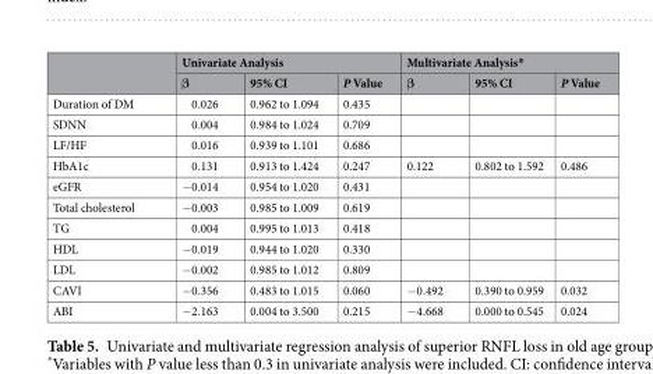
<table><thead><tr><td rowspan="2"></td><td colspan="3">Univariate Analysis</td><td colspan="3">Multivariate Analysis*</td></tr><tr><td>β</td><td>95% CI</td><td>P Value</td><td>β</td><td>95% CI</td><td>P Value</td></tr></thead><tbody><tr><td>Duration of DM</td><td>0.026</td><td>0.962 to 1.094</td><td>0.435</td><td></td><td></td><td></td></tr><tr><td>SDNN</td><td>0.004</td><td>0.984 to 1.024</td><td>0.709</td><td></td><td></td><td></td></tr><tr><td>LF/HF</td><td>0.016</td><td>0.939 to 1.101</td><td>0.686</td><td></td><td></td><td></td></tr><tr><td>HbA1c</td><td>0.131</td><td>0.913 to 1.424</td><td>0.247</td><td>0.122</td><td>0.802 to 1.592</td><td>0.486</td></tr><tr><td>eGFR</td><td>−0.014</td><td>0.954 to 1.020</td><td>0.431</td><td></td><td></td><td></td></tr><tr><td>Total cholesterol</td><td>−0.003</td><td>0.985 to 1.009</td><td>0.619</td><td></td><td></td><td></td></tr><tr><td>TG</td><td>0.004</td><td>0.995 to 1.013</td><td>0.418</td><td></td><td></td><td></td></tr><tr><td>HDL</td><td>−0.019</td><td>0.944 to 1.020</td><td>0.330</td><td></td><td></td><td></td></tr><tr><td>LDL</td><td>−0.002</td><td>0.985 to 1.012</td><td>0.809</td><td></td><td></td><td></td></tr><tr><td>CAVI</td><td>−0.356</td><td>0.483 to 1.015</td><td>0.060</td><td>−0.492</td><td>0.390 to 0.959</td><td>0.032</td></tr><tr><td>ABI</td><td>−2.163</td><td>0.004 to 3.500</td><td>0.215</td><td>−4.668</td><td>0.000 to 0.545</td><td>0.024</td></tr></tbody></table>